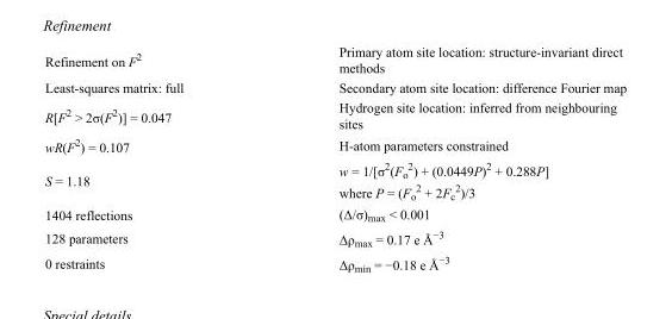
<table><tbody><tr><td>Refinement on F<sup>2</sup></td><td>Primary atom site location: structure-invariant direct methods</td></tr><tr><td>Least-squares matrix: full</td><td>Secondary atom site location: difference Fourier map</td></tr><tr><td>R[F<sup>2</sup> &gt; 2σ(F<sup>2</sup>)] = 0.047</td><td>Hydrogen site location: inferred from neighbouring sites</td></tr><tr><td>wR(F<sup>2</sup>) = 0.107</td><td>H-atom parameters constrained</td></tr><tr><td>S = 1.18</td><td>w = 1/[σ<sup>2</sup>(F<sub>o</sub> <sup>2</sup>) + (0.0449P)<sup>2</sup> + 0.288P] where P = (F<sub>o</sub> <sup>2</sup> + 2F<sub>c</sub> <sup>2</sup>)/3</td></tr><tr><td>1404 reflections</td><td>(Δ/σ)<sub>max</sub> &lt; 0.001</td></tr><tr><td>128 parameters</td><td>Δρ<sub>max</sub> = 0.17 e Å<sup>−3</sup></td></tr><tr><td>0 restraints</td><td>Δρ<sub>min</sub> = −0.18 e Å<sup>−3</sup></td></tr></tbody></table>